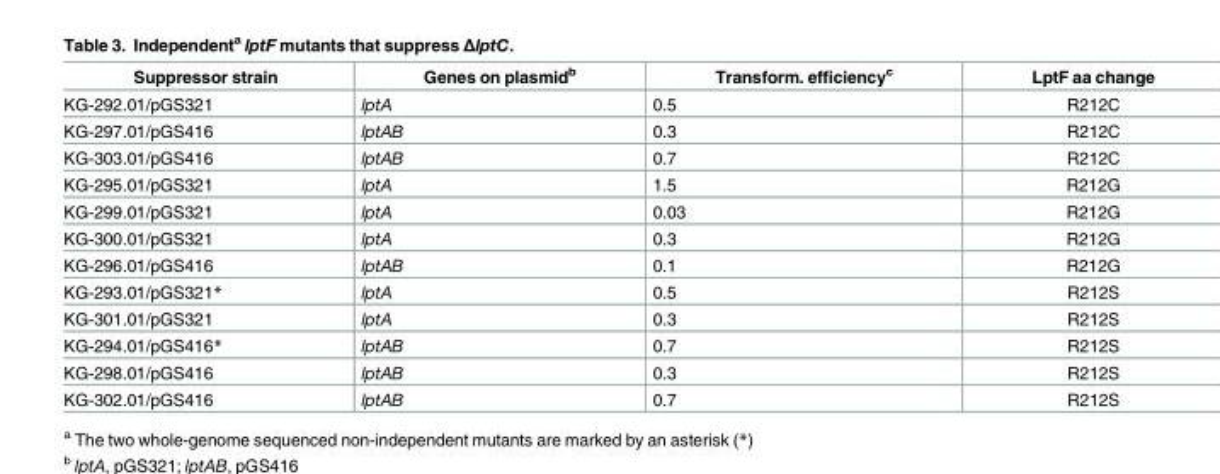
<table><thead><tr><td>Suppressor strain</td><td>Genes on plasmid<sup>b</sup></td><td>Transform. efficiency<sup>c</sup></td><td>LptF aa change</td></tr></thead><tbody><tr><td>KG-292.01/pGS321</td><td>lptA</td><td>0.5</td><td>R212C</td></tr><tr><td>KG-297.01/pGS416</td><td>lptAB</td><td>0.3</td><td>R212C</td></tr><tr><td>KG-303.01/pGS416</td><td>lptAB</td><td>0.7</td><td>R212C</td></tr><tr><td>KG-295.01/pGS321</td><td>lptA</td><td>1.5</td><td>R212G</td></tr><tr><td>KG-299.01/pGS321</td><td>lptA</td><td>0.03</td><td>R212G</td></tr><tr><td>KG-300.01/pGS321</td><td>lptA</td><td>0.3</td><td>R212G</td></tr><tr><td>KG-296.01/pGS416</td><td>lptAB</td><td>0.1</td><td>R212G</td></tr><tr><td>KG-293.01/pGS321*</td><td>lptA</td><td>0.5</td><td>R212S</td></tr><tr><td>KG-301.01/pGS321</td><td>lptA</td><td>0.3</td><td>R212S</td></tr><tr><td>KG-294.01/pGS416*</td><td>lptAB</td><td>0.7</td><td>R212S</td></tr><tr><td>KG-298.01/pGS416</td><td>lptAB</td><td>0.3</td><td>R212S</td></tr><tr><td>KG-302.01/pGS416</td><td>lptAB</td><td>0.7</td><td>R212S</td></tr></tbody></table>